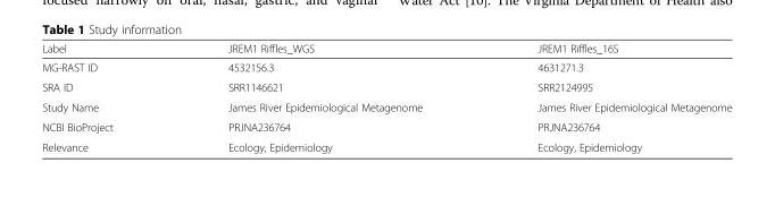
<table><thead><tr><td>Label</td><td>JREM1 Riffles_WGS</td><td>JREM1 Riffles_16S</td></tr></thead><tbody><tr><td>MG-RAST ID</td><td>4532156.3</td><td>4631271.3</td></tr><tr><td>SRA ID</td><td>SRR1146621</td><td>SRR2124995</td></tr><tr><td>Study Name</td><td>James River Epidemiological Metagenome</td><td>James River Epidemiological Metagenome</td></tr><tr><td>NCBI BioProject</td><td>PRJNA236764</td><td>PRJNA236764</td></tr><tr><td>Relevance</td><td>Ecology, Epidemiology</td><td>Ecology, Epidemiology</td></tr></tbody></table>